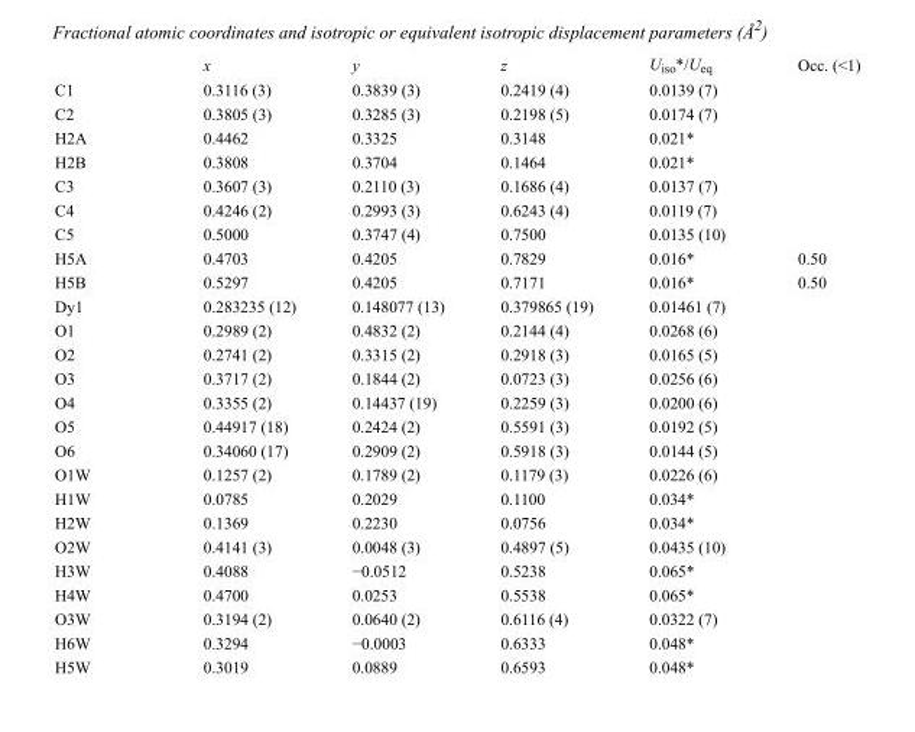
<table><thead><tr><td></td><td>x</td><td>y</td><td>z</td><td>U<sub>iso</sub>*/U<sub>eq</sub></td><td>Occ. (&lt;1)</td></tr></thead><tbody><tr><td>C1</td><td>0.3116 (3)</td><td>0.3839 (3)</td><td>0.2419 (4)</td><td>0.0139 (7)</td><td></td></tr><tr><td>C2</td><td>0.3805 (3)</td><td>0.3285 (3)</td><td>0.2198 (5)</td><td>0.0174 (7)</td><td></td></tr><tr><td>H2A</td><td>0.4462</td><td>0.3325</td><td>0.3148</td><td>0.021*</td><td></td></tr><tr><td>H2B</td><td>0.3808</td><td>0.3704</td><td>0.1464</td><td>0.021*</td><td></td></tr><tr><td>C3</td><td>0.3607 (3)</td><td>0.2110 (3)</td><td>0.1686 (4)</td><td>0.0137 (7)</td><td></td></tr><tr><td>C4</td><td>0.4246 (2)</td><td>0.2993 (3)</td><td>0.6243 (4)</td><td>0.0119 (7)</td><td></td></tr><tr><td>C5</td><td>0.5000</td><td>0.3747 (4)</td><td>0.7500</td><td>0.0135 (10)</td><td></td></tr><tr><td>H5A</td><td>0.4703</td><td>0.4205</td><td>0.7829</td><td>0.016*</td><td>0.50</td></tr><tr><td>H5B</td><td>0.5297</td><td>0.4205</td><td>0.7171</td><td>0.016*</td><td>0.50</td></tr><tr><td>Dy1</td><td>0.283235 (12)</td><td>0.148077 (13)</td><td>0.379865 (19)</td><td>0.01461 (7)</td><td></td></tr><tr><td>O1</td><td>0.2989 (2)</td><td>0.4832 (2)</td><td>0.2144 (4)</td><td>0.0268 (6)</td><td></td></tr><tr><td>O2</td><td>0.2741 (2)</td><td>0.3315 (2)</td><td>0.2918 (3)</td><td>0.0165 (5)</td><td></td></tr><tr><td>O3</td><td>0.3717 (2)</td><td>0.1844 (2)</td><td>0.0723 (3)</td><td>0.0256 (6)</td><td></td></tr><tr><td>O4</td><td>0.3355 (2)</td><td>0.14437 (19)</td><td>0.2259 (3)</td><td>0.0200 (6)</td><td></td></tr><tr><td>O5</td><td>0.44917 (18)</td><td>0.2424 (2)</td><td>0.5591 (3)</td><td>0.0192 (5)</td><td></td></tr><tr><td>O6</td><td>0.34060 (17)</td><td>0.2909 (2)</td><td>0.5918 (3)</td><td>0.0144 (5)</td><td></td></tr><tr><td>O1W</td><td>0.1257 (2)</td><td>0.1789 (2)</td><td>0.1179 (3)</td><td>0.0226 (6)</td><td></td></tr><tr><td>H1W</td><td>0.0785</td><td>0.2029</td><td>0.1100</td><td>0.034*</td><td></td></tr><tr><td>H2W</td><td>0.1369</td><td>0.2230</td><td>0.0756</td><td>0.034*</td><td></td></tr><tr><td>O2W</td><td>0.4141 (3)</td><td>0.0048 (3)</td><td>0.4897 (5)</td><td>0.0435 (10)</td><td></td></tr><tr><td>H3W</td><td>0.4088</td><td>−0.0512</td><td>0.5238</td><td>0.065*</td><td></td></tr><tr><td>H4W</td><td>0.4700</td><td>0.0253</td><td>0.5538</td><td>0.065*</td><td></td></tr><tr><td>O3W</td><td>0.3194 (2)</td><td>0.0640 (2)</td><td>0.6116 (4)</td><td>0.0322 (7)</td><td></td></tr><tr><td>H6W</td><td>0.3294</td><td>−0.0003</td><td>0.6333</td><td>0.048*</td><td></td></tr><tr><td>H5W</td><td>0.3019</td><td>0.0889</td><td>0.6593</td><td>0.048*</td><td></td></tr></tbody></table>